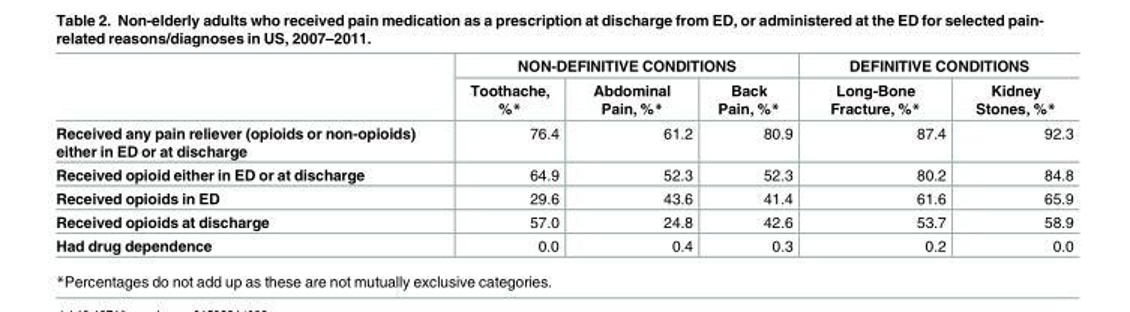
<table><thead><tr><td rowspan="2"></td><td colspan="3">NON-DEFINITIVE CONDITIONS</td><td colspan="2">DEFINITIVE CONDITIONS</td></tr><tr><td>Toothache, %*</td><td>Abdominal Pain, %*</td><td>Back Pain, %*</td><td>Long-Bone Fracture, %*</td><td>Kidney Stones, %*</td></tr></thead><tbody><tr><td>Received any pain reliever (opioids or non-opioids) either in ED or at discharge</td><td>76.4</td><td>61.2</td><td>80.9</td><td>87.4</td><td>92.3</td></tr><tr><td>Received opioid either in ED or at discharge</td><td>64.9</td><td>52.3</td><td>52.3</td><td>80.2</td><td>84.8</td></tr><tr><td>Received opioids in ED</td><td>29.6</td><td>43.6</td><td>41.4</td><td>61.6</td><td>65.9</td></tr><tr><td>Received opioids at discharge</td><td>57.0</td><td>24.8</td><td>42.6</td><td>53.7</td><td>58.9</td></tr><tr><td>Had drug dependence</td><td>0.0</td><td>0.4</td><td>0.3</td><td>0.2</td><td>0.0</td></tr></tbody></table>